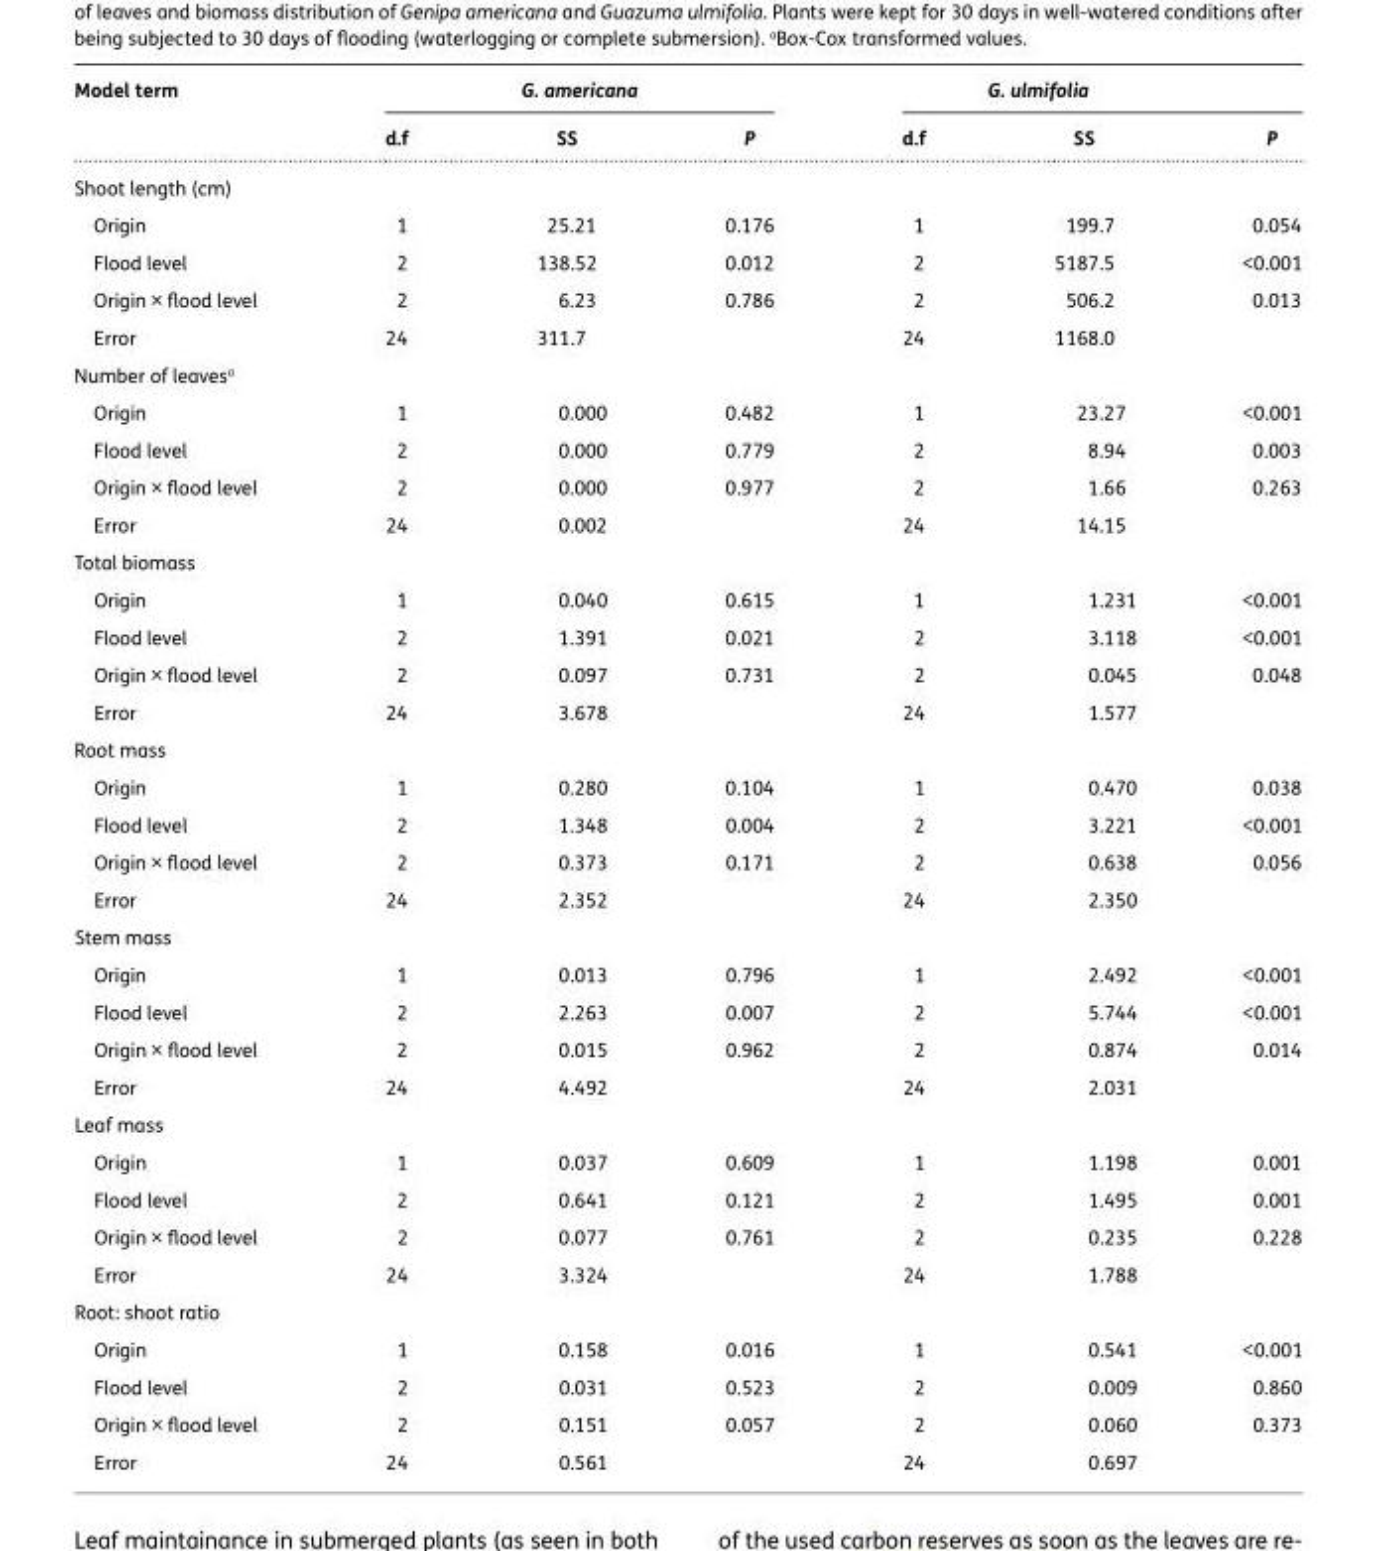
<table><thead><tr><td rowspan="2">Model term</td><td colspan="3">G. americana</td><td colspan="3">G. ulmifolia</td></tr><tr><td>d.f</td><td>SS</td><td>P</td><td>d.f</td><td>SS</td><td>P</td></tr></thead><tbody><tr><td colspan="7">Shoot length (cm)</td></tr><tr><td>Origin</td><td>1</td><td>25.21</td><td>0.176</td><td>1</td><td>199.7</td><td>0.054</td></tr><tr><td>Flood level</td><td>2</td><td>138.52</td><td>0.012</td><td>2</td><td>5187.5</td><td>&lt;0.001</td></tr><tr><td>Origin × flood level</td><td>2</td><td>6.23</td><td>0.786</td><td>2</td><td>506.2</td><td>0.013</td></tr><tr><td>Error</td><td>24</td><td>311.7</td><td></td><td>24</td><td>1168.0</td><td></td></tr><tr><td colspan="7">Number of leaves<sup>a</sup></td></tr><tr><td>Origin</td><td>1</td><td>0.000</td><td>0.482</td><td>1</td><td>23.27</td><td>&lt;0.001</td></tr><tr><td>Flood level</td><td>2</td><td>0.000</td><td>0.779</td><td>2</td><td>8.94</td><td>0.003</td></tr><tr><td>Origin × flood level</td><td>2</td><td>0.000</td><td>0.977</td><td>2</td><td>1.66</td><td>0.263</td></tr><tr><td>Error</td><td>24</td><td>0.002</td><td></td><td>24</td><td>14.15</td><td></td></tr><tr><td colspan="7">Total biomass</td></tr><tr><td>Origin</td><td>1</td><td>0.040</td><td>0.615</td><td>1</td><td>1.231</td><td>&lt;0.001</td></tr><tr><td>Flood level</td><td>2</td><td>1.391</td><td>0.021</td><td>2</td><td>3.118</td><td>&lt;0.001</td></tr><tr><td>Origin × flood level</td><td>2</td><td>0.097</td><td>0.731</td><td>2</td><td>0.045</td><td>0.048</td></tr><tr><td>Error</td><td>24</td><td>3.678</td><td></td><td>24</td><td>1.577</td><td></td></tr><tr><td colspan="7">Root mass</td></tr><tr><td>Origin</td><td>1</td><td>0.280</td><td>0.104</td><td>1</td><td>0.470</td><td>0.038</td></tr><tr><td>Flood level</td><td>2</td><td>1.348</td><td>0.004</td><td>2</td><td>3.221</td><td>&lt;0.001</td></tr><tr><td>Origin × flood level</td><td>2</td><td>0.373</td><td>0.171</td><td>2</td><td>0.638</td><td>0.056</td></tr><tr><td>Error</td><td>24</td><td>2.352</td><td></td><td>24</td><td>2.350</td><td></td></tr><tr><td colspan="7">Stem mass</td></tr><tr><td>Origin</td><td>1</td><td>0.013</td><td>0.796</td><td>1</td><td>2.492</td><td>&lt;0.001</td></tr><tr><td>Flood level</td><td>2</td><td>2.263</td><td>0.007</td><td>2</td><td>5.744</td><td>&lt;0.001</td></tr><tr><td>Origin × flood level</td><td>2</td><td>0.015</td><td>0.962</td><td>2</td><td>0.874</td><td>0.014</td></tr><tr><td>Error</td><td>24</td><td>4.492</td><td></td><td>24</td><td>2.031</td><td></td></tr><tr><td colspan="7">Leaf mass</td></tr><tr><td>Origin</td><td>1</td><td>0.037</td><td>0.609</td><td>1</td><td>1.198</td><td>0.001</td></tr><tr><td>Flood level</td><td>2</td><td>0.641</td><td>0.121</td><td>2</td><td>1.495</td><td>0.001</td></tr><tr><td>Origin × flood level</td><td>2</td><td>0.077</td><td>0.761</td><td>2</td><td>0.235</td><td>0.228</td></tr><tr><td>Error</td><td>24</td><td>3.324</td><td></td><td>24</td><td>1.788</td><td></td></tr><tr><td colspan="7">Root: shoot ratio</td></tr><tr><td>Origin</td><td>1</td><td>0.158</td><td>0.016</td><td>1</td><td>0.541</td><td>&lt;0.001</td></tr><tr><td>Flood level</td><td>2</td><td>0.031</td><td>0.523</td><td>2</td><td>0.009</td><td>0.860</td></tr><tr><td>Origin × flood level</td><td>2</td><td>0.151</td><td>0.057</td><td>2</td><td>0.060</td><td>0.373</td></tr><tr><td>Error</td><td>24</td><td>0.561</td><td></td><td>24</td><td>0.697</td><td></td></tr></tbody></table>